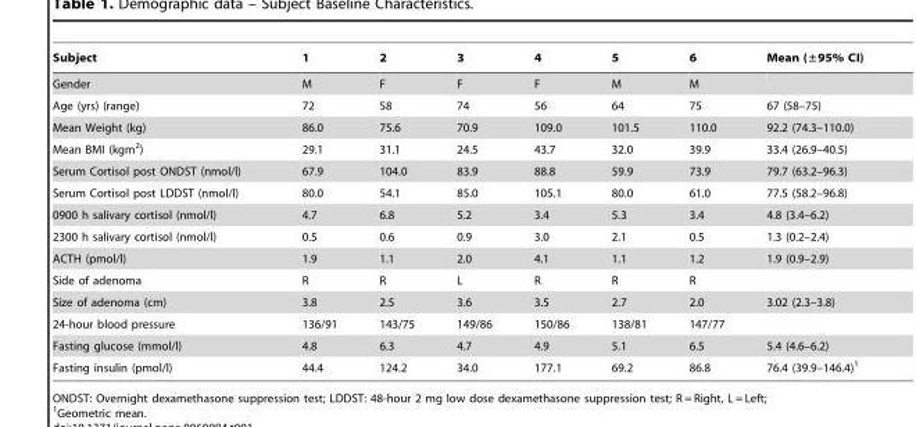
<table><thead><tr><td>Subject</td><td>1</td><td>2</td><td>3</td><td>4</td><td>5</td><td>6</td><td>Mean (±95% CI)</td></tr></thead><tbody><tr><td>Gender</td><td>M</td><td>F</td><td>F</td><td>F</td><td>M</td><td>M</td><td></td></tr><tr><td>Age (yrs) (range)</td><td>72</td><td>58</td><td>74</td><td>56</td><td>64</td><td>75</td><td>67 (58–75)</td></tr><tr><td>Mean Weight (kg)</td><td>86.0</td><td>75.6</td><td>70.9</td><td>109.0</td><td>101.5</td><td>110.0</td><td>92.2 (74.3–110.0)</td></tr><tr><td>Mean BMI (kgm<sup>2</sup>)</td><td>29.1</td><td>31.1</td><td>24.5</td><td>43.7</td><td>32.0</td><td>39.9</td><td>33.4 (26.9–40.5)</td></tr><tr><td>Serum Cortisol post ONDST (nmol/l)</td><td>67.9</td><td>104.0</td><td>83.9</td><td>88.8</td><td>59.9</td><td>73.9</td><td>79.7 (63.2–96.3)</td></tr><tr><td>Serum Cortisol post LDDST (nmol/l)</td><td>80.0</td><td>54.1</td><td>85.0</td><td>105.1</td><td>80.0</td><td>61.0</td><td>77.5 (58.2–96.8)</td></tr><tr><td>0900 h salivary cortisol (nmol/l)</td><td>4.7</td><td>6.8</td><td>5.2</td><td>3.4</td><td>5.3</td><td>3.4</td><td>4.8 (3.4–6.2)</td></tr><tr><td>2300 h salivary cortisol (nmol/l)</td><td>0.5</td><td>0.6</td><td>0.9</td><td>3.0</td><td>2.1</td><td>0.5</td><td>1.3 (0.2–2.4)</td></tr><tr><td>ACTH (pmol/l)</td><td>1.9</td><td>1.1</td><td>2.0</td><td>4.1</td><td>1.1</td><td>1.2</td><td>1.9 (0.9–2.9)</td></tr><tr><td>Side of adenoma</td><td>R</td><td>R</td><td>L</td><td>R</td><td>R</td><td>R</td><td></td></tr><tr><td>Size of adenoma (cm)</td><td>3.8</td><td>2.5</td><td>3.6</td><td>3.5</td><td>2.7</td><td>2.0</td><td>3.02 (2.3–3.8)</td></tr><tr><td>24-hour blood pressure</td><td>136/91</td><td>143/75</td><td>149/86</td><td>150/86</td><td>138/81</td><td>147/77</td><td></td></tr><tr><td>Fasting glucose (mmol/l)</td><td>4.8</td><td>6.3</td><td>4.7</td><td>4.9</td><td>5.1</td><td>6.5</td><td>5.4 (4.6–6.2)</td></tr><tr><td>Fasting insulin (pmol/l)</td><td>44.4</td><td>124.2</td><td>34.0</td><td>177.1</td><td>69.2</td><td>86.8</td><td>76.4 (39.9–146.4)<sup>1</sup></td></tr></tbody></table>